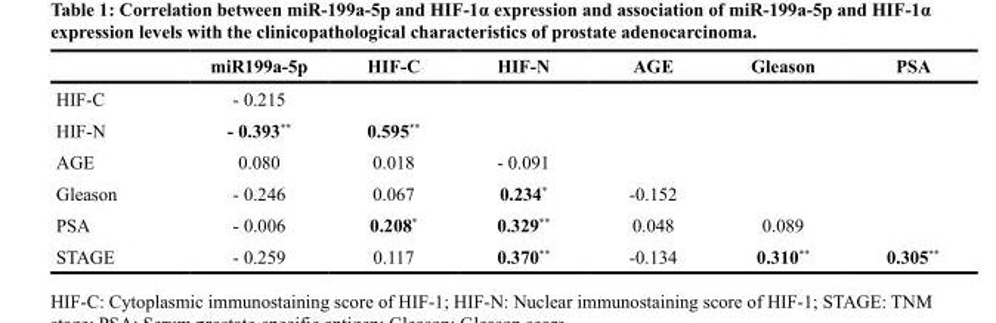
<table><thead><tr><td></td><td>miR199a-5p</td><td>HIF-C</td><td>HIF-N</td><td>AGE</td><td>Gleason</td><td>PSA</td></tr></thead><tbody><tr><td>HIF-C</td><td>- 0.215</td><td></td><td></td><td></td><td></td><td></td></tr><tr><td>HIF-N</td><td>- 0.393**</td><td>0.595**</td><td></td><td></td><td></td><td></td></tr><tr><td>AGE</td><td>0.080</td><td>0.018</td><td>- 0.091</td><td></td><td></td><td></td></tr><tr><td>Gleason</td><td>- 0.246</td><td>0.067</td><td>0.234*</td><td>-0.152</td><td></td><td></td></tr><tr><td>PSA</td><td>- 0.006</td><td>0.208*</td><td>0.329**</td><td>0.048</td><td>0.089</td><td></td></tr><tr><td>STAGE</td><td>- 0.259</td><td>0.117</td><td>0.370**</td><td>-0.134</td><td>0.310**</td><td>0.305**</td></tr></tbody></table>